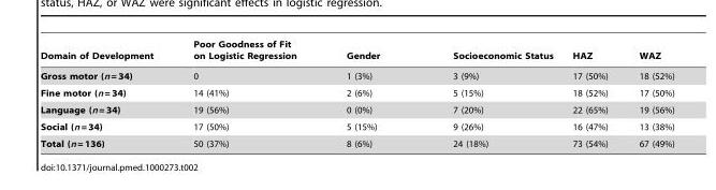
<table><thead><tr><td>Domain of Development</td><td>Poor Goodness of Fit on Logistic Regression</td><td>Gender</td><td>Socioeconomic Status</td><td>HAZ</td><td>WAZ</td></tr></thead><tbody><tr><td>Gross motor (n = 34)</td><td>0</td><td>1 (3%)</td><td>3 (9%)</td><td>17 (50%)</td><td>18 (52%)</td></tr><tr><td>Fine motor (n = 34)</td><td>14 (41%)</td><td>2 (6%)</td><td>5 (15%)</td><td>18 (52%)</td><td>17 (50%)</td></tr><tr><td>Language (n = 34)</td><td>19 (56%)</td><td>0 (0%)</td><td>7 (20%)</td><td>22 (65%)</td><td>19 (56%)</td></tr><tr><td>Social (n = 34)</td><td>17 (50%)</td><td>5 (15%)</td><td>9 (26%)</td><td>16 (47%)</td><td>13 (38%)</td></tr><tr><td>Total (n = 136)</td><td>50 (37%)</td><td>8 (6%)</td><td>24 (18%)</td><td>73 (54%)</td><td>67 (49%)</td></tr></tbody></table>